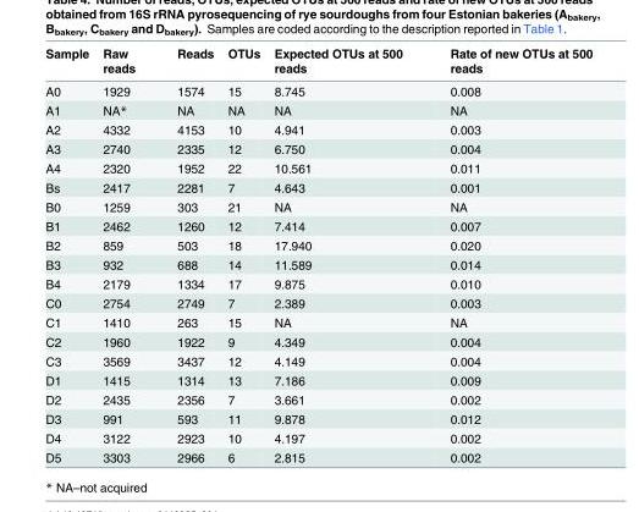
<table><thead><tr><td>Sample</td><td>Raw reads</td><td>Reads</td><td>OTUs</td><td>Expected OTUs at 500 reads</td><td>Rate of new OTUs at 500 reads</td></tr></thead><tbody><tr><td>A0</td><td>1929</td><td>1574</td><td>15</td><td>8.745</td><td>0.008</td></tr><tr><td>A1</td><td>NA*</td><td>NA</td><td>NA</td><td>NA</td><td>NA</td></tr><tr><td>A2</td><td>4332</td><td>4153</td><td>10</td><td>4.941</td><td>0.003</td></tr><tr><td>A3</td><td>2740</td><td>2335</td><td>12</td><td>6.750</td><td>0.004</td></tr><tr><td>A4</td><td>2320</td><td>1952</td><td>22</td><td>10.561</td><td>0.011</td></tr><tr><td>Bs</td><td>2417</td><td>2281</td><td>7</td><td>4.643</td><td>0.001</td></tr><tr><td>B0</td><td>1259</td><td>303</td><td>21</td><td>NA</td><td>NA</td></tr><tr><td>B1</td><td>2462</td><td>1260</td><td>12</td><td>7.414</td><td>0.007</td></tr><tr><td>B2</td><td>859</td><td>503</td><td>18</td><td>17.940</td><td>0.020</td></tr><tr><td>B3</td><td>932</td><td>688</td><td>14</td><td>11.589</td><td>0.014</td></tr><tr><td>B4</td><td>2179</td><td>1334</td><td>17</td><td>9.875</td><td>0.010</td></tr><tr><td>C0</td><td>2754</td><td>2749</td><td>7</td><td>2.389</td><td>0.003</td></tr><tr><td>C1</td><td>1410</td><td>263</td><td>15</td><td>NA</td><td>NA</td></tr><tr><td>C2</td><td>1960</td><td>1922</td><td>9</td><td>4.349</td><td>0.004</td></tr><tr><td>C3</td><td>3569</td><td>3437</td><td>12</td><td>4.149</td><td>0.004</td></tr><tr><td>D1</td><td>1415</td><td>1314</td><td>13</td><td>7.186</td><td>0.009</td></tr><tr><td>D2</td><td>2435</td><td>2356</td><td>7</td><td>3.661</td><td>0.002</td></tr><tr><td>D3</td><td>991</td><td>593</td><td>11</td><td>9.878</td><td>0.012</td></tr><tr><td>D4</td><td>3122</td><td>2923</td><td>10</td><td>4.197</td><td>0.002</td></tr><tr><td>D5</td><td>3303</td><td>2966</td><td>6</td><td>2.815</td><td>0.002</td></tr></tbody></table>